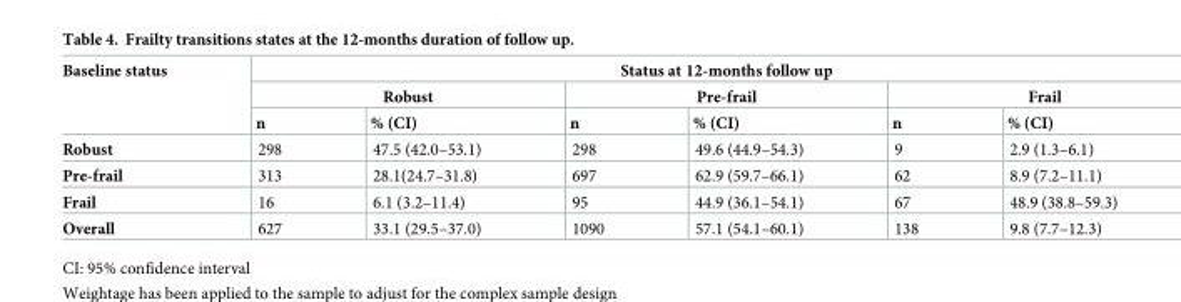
<table><thead><tr><td rowspan="3">Baseline status</td><td colspan="6">Status at 12-months follow up</td></tr><tr><td colspan="2">Robust</td><td colspan="2">Pre-frail</td><td colspan="2">Frail</td></tr><tr><td>n</td><td>% (CI)</td><td>n</td><td>% (CI)</td><td>n</td><td>% (CI)</td></tr></thead><tbody><tr><td>Robust</td><td>298</td><td>47.5 (42.0–53.1)</td><td>298</td><td>49.6 (44.9–54.3)</td><td>9</td><td>2.9 (1.3–6.1)</td></tr><tr><td>Pre-frail</td><td>313</td><td>28.1(24.7–31.8)</td><td>697</td><td>62.9 (59.7–66.1)</td><td>62</td><td>8.9 (7.2–11.1)</td></tr><tr><td>Frail</td><td>16</td><td>6.1 (3.2–11.4)</td><td>95</td><td>44.9 (36.1–54.1)</td><td>67</td><td>48.9 (38.8–59.3)</td></tr><tr><td>Overall</td><td>627</td><td>33.1 (29.5–37.0)</td><td>1090</td><td>57.1 (54.1–60.1)</td><td>138</td><td>9.8 (7.7–12.3)</td></tr></tbody></table>